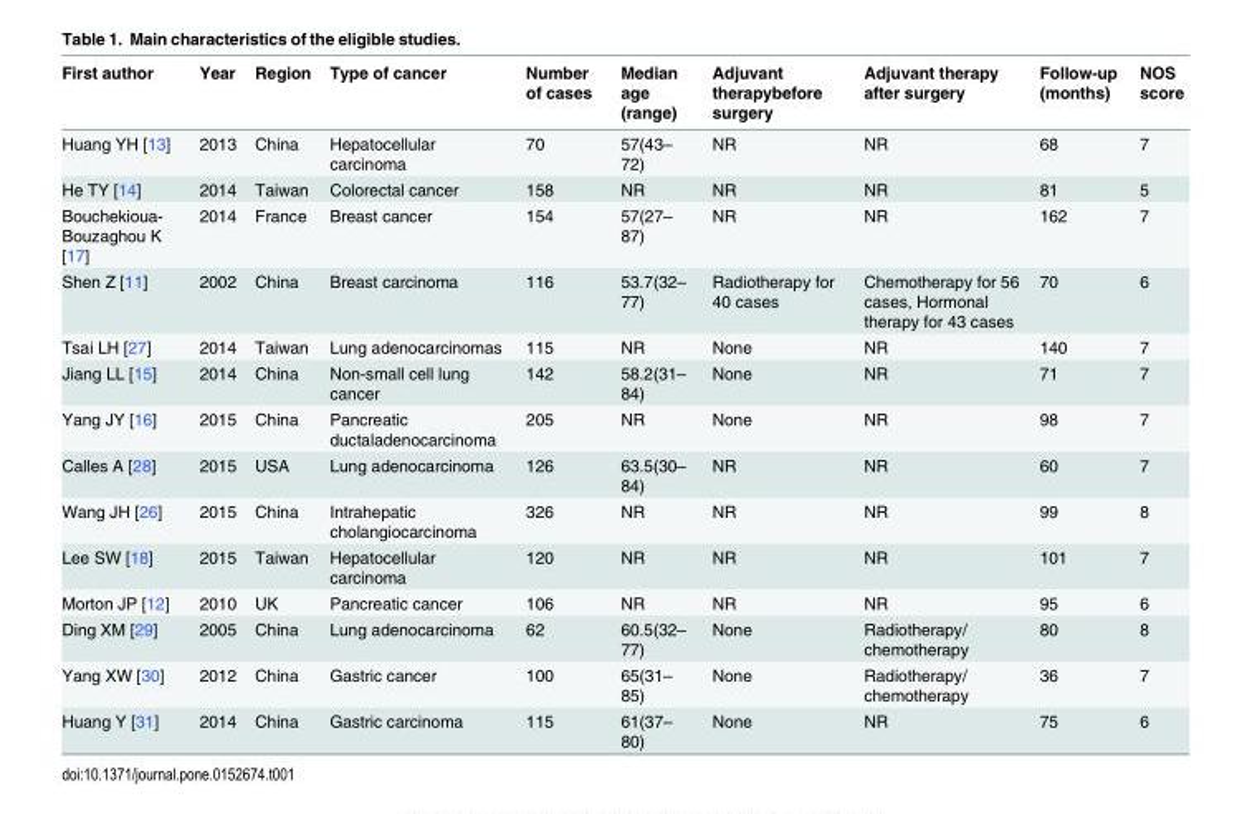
<table><thead><tr><td>First author</td><td>Year</td><td>Region</td><td>Type of cancer</td><td>Number of cases</td><td>Median age (range)</td><td>Adjuvant therapybefore surgery</td><td>Adjuvant therapy after surgery</td><td>Follow-up (months)</td><td>NOS score</td></tr></thead><tbody><tr><td>Huang YH [13]</td><td>2013</td><td>China</td><td>Hepatocellular carcinoma</td><td>70</td><td>57(43– 72)</td><td>NR</td><td>NR</td><td>68</td><td>7</td></tr><tr><td>He TY [14]</td><td>2014</td><td>Taiwan</td><td>Colorectal cancer</td><td>158</td><td>NR</td><td>NR</td><td>NR</td><td>81</td><td>5</td></tr><tr><td>Bouchekioua- Bouzaghou K [17]</td><td>2014</td><td>France</td><td>Breast cancer</td><td>154</td><td>57(27– 87)</td><td>NR</td><td>NR</td><td>162</td><td>7</td></tr><tr><td>Shen Z [11]</td><td>2002</td><td>China</td><td>Breast carcinoma</td><td>116</td><td>53.7(32– 77)</td><td>Radiotherapy for 40 cases</td><td>Chemotherapy for 56 cases, Hormonal therapy for 43 cases</td><td>70</td><td>6</td></tr><tr><td>Tsai LH [27]</td><td>2014</td><td>Taiwan</td><td>Lung adenocarcinomas</td><td>115</td><td>NR</td><td>None</td><td>NR</td><td>140</td><td>7</td></tr><tr><td>Jiang LL [15]</td><td>2014</td><td>China</td><td>Non-small cell lung cancer</td><td>142</td><td>58.2(31– 84)</td><td>None</td><td>NR</td><td>71</td><td>7</td></tr><tr><td>Yang JY [16]</td><td>2015</td><td>China</td><td>Pancreatic ductaladenocarcinoma</td><td>205</td><td>NR</td><td>None</td><td>NR</td><td>98</td><td>7</td></tr><tr><td>Calles A [28]</td><td>2015</td><td>USA</td><td>Lung adenocarcinoma</td><td>126</td><td>63.5(30– 84)</td><td>NR</td><td>NR</td><td>60</td><td>7</td></tr><tr><td>Wang JH [26]</td><td>2015</td><td>China</td><td>Intrahepatic cholangiocarcinoma</td><td>326</td><td>NR</td><td>NR</td><td>NR</td><td>99</td><td>8</td></tr><tr><td>Lee SW [18]</td><td>2015</td><td>Taiwan</td><td>Hepatocellular carcinoma</td><td>120</td><td>NR</td><td>NR</td><td>NR</td><td>101</td><td>7</td></tr><tr><td>Morton JP [12]</td><td>2010</td><td>UK</td><td>Pancreatic cancer</td><td>106</td><td>NR</td><td>NR</td><td>NR</td><td>95</td><td>6</td></tr><tr><td>Ding XM [29]</td><td>2005</td><td>China</td><td>Lung adenocarcinoma</td><td>62</td><td>60.5(32– 77)</td><td>None</td><td>Radiotherapy/ chemotherapy</td><td>80</td><td>8</td></tr><tr><td>Yang XW [30]</td><td>2012</td><td>China</td><td>Gastric cancer</td><td>100</td><td>65(31– 85)</td><td>None</td><td>Radiotherapy/ chemotherapy</td><td>36</td><td>7</td></tr><tr><td>Huang Y [31]</td><td>2014</td><td>China</td><td>Gastric carcinoma</td><td>115</td><td>61(37– 80)</td><td>None</td><td>NR</td><td>75</td><td>6</td></tr></tbody></table>